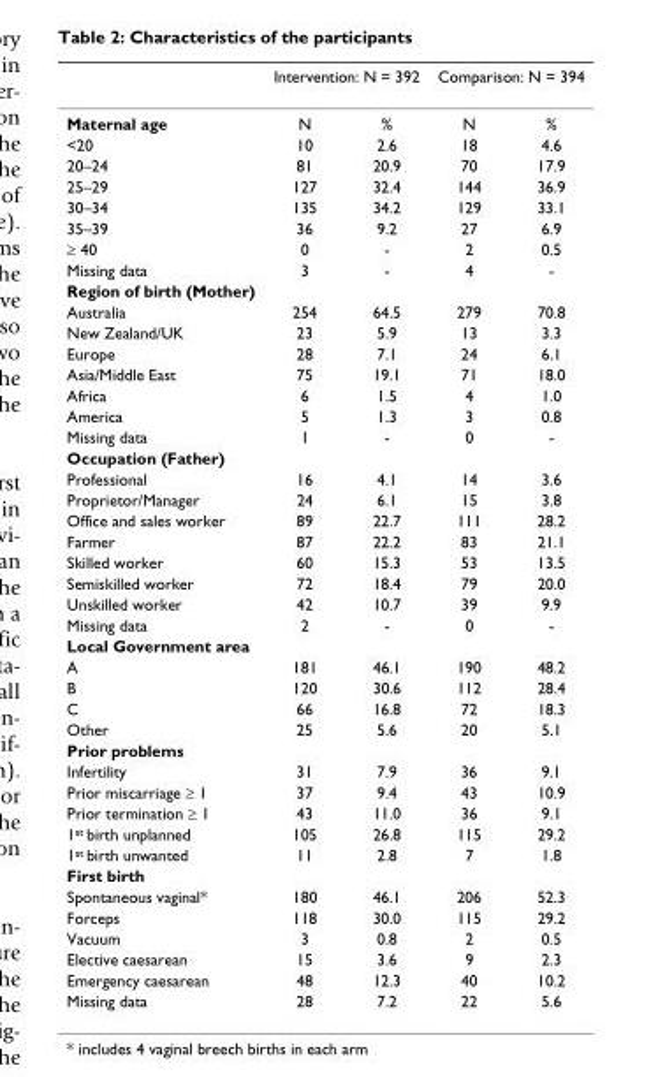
<table><thead><tr><td rowspan="2">Maternal age</td><td colspan="2">Intervention: N = 392</td><td colspan="2">Comparison: N = 394</td></tr><tr><td>N</td><td>%</td><td>N</td><td>%</td></tr></thead><tbody><tr><td>&lt;20</td><td>10</td><td>2.6</td><td>18</td><td>4.6</td></tr><tr><td>20–24</td><td>81</td><td>20.9</td><td>70</td><td>17.9</td></tr><tr><td>25–29</td><td>127</td><td>32.4</td><td>144</td><td>36.9</td></tr><tr><td>30–34</td><td>135</td><td>34.2</td><td>129</td><td>33.1</td></tr><tr><td>35–39</td><td>36</td><td>9.2</td><td>27</td><td>6.9</td></tr><tr><td>≥ 40</td><td>0</td><td>-</td><td>2</td><td>0.5</td></tr><tr><td>Missing data</td><td>3</td><td>-</td><td>4</td><td>-</td></tr><tr><td colspan="5">Region of birth (Mother)</td></tr><tr><td>Australia</td><td>254</td><td>64.5</td><td>279</td><td>70.8</td></tr><tr><td>New Zealand/UK</td><td>23</td><td>5.9</td><td>13</td><td>3.3</td></tr><tr><td>Europe</td><td>28</td><td>7.1</td><td>24</td><td>6.1</td></tr><tr><td>Asia/Middle East</td><td>75</td><td>19.1</td><td>71</td><td>18.0</td></tr><tr><td>Africa</td><td>6</td><td>1.5</td><td>4</td><td>1.0</td></tr><tr><td>America</td><td>5</td><td>1.3</td><td>3</td><td>0.8</td></tr><tr><td>Missing data</td><td>1</td><td>-</td><td>0</td><td>-</td></tr><tr><td colspan="5">Occupation (Father)</td></tr><tr><td>Professional</td><td>16</td><td>4.1</td><td>14</td><td>3.6</td></tr><tr><td>Proprietor/Manager</td><td>24</td><td>6.1</td><td>15</td><td>3.8</td></tr><tr><td>Office and sales worker</td><td>89</td><td>22.7</td><td>111</td><td>28.2</td></tr><tr><td>Farmer</td><td>87</td><td>22.2</td><td>83</td><td>21.1</td></tr><tr><td>Skilled worker</td><td>60</td><td>15.3</td><td>53</td><td>13.5</td></tr><tr><td>Semiskilled worker</td><td>72</td><td>18.4</td><td>79</td><td>20.0</td></tr><tr><td>Unskilled worker</td><td>42</td><td>10.7</td><td>39</td><td>9.9</td></tr><tr><td>Missing data</td><td>2</td><td>-</td><td>0</td><td>-</td></tr><tr><td colspan="5">Local Government area</td></tr><tr><td>A</td><td>181</td><td>46.1</td><td>190</td><td>48.2</td></tr><tr><td>B</td><td>120</td><td>30.6</td><td>112</td><td>28.4</td></tr><tr><td>C</td><td>66</td><td>16.8</td><td>72</td><td>18.3</td></tr><tr><td>Other</td><td>25</td><td>5.6</td><td>20</td><td>5.1</td></tr><tr><td colspan="5">Prior problems</td></tr><tr><td>Infertility</td><td>31</td><td>7.9</td><td>36</td><td>9.1</td></tr><tr><td>Prior miscarriage ≥ 1</td><td>37</td><td>9.4</td><td>43</td><td>10.9</td></tr><tr><td>Prior termination ≥ 1</td><td>43</td><td>11.0</td><td>36</td><td>9.1</td></tr><tr><td>1st birth unplanned</td><td>105</td><td>26.8</td><td>115</td><td>29.2</td></tr><tr><td>1st birth unwanted</td><td>11</td><td>2.8</td><td>7</td><td>1.8</td></tr><tr><td colspan="5">First birth</td></tr><tr><td>Spontaneous vaginal*</td><td>180</td><td>46.1</td><td>206</td><td>52.3</td></tr><tr><td>Forceps</td><td>118</td><td>30.0</td><td>115</td><td>29.2</td></tr><tr><td>Vacuum</td><td>3</td><td>0.8</td><td>2</td><td>0.5</td></tr><tr><td>Elective caesarean</td><td>15</td><td>3.6</td><td>9</td><td>2.3</td></tr><tr><td>Emergency caesarean</td><td>48</td><td>12.3</td><td>40</td><td>10.2</td></tr><tr><td>Missing data</td><td>28</td><td>7.2</td><td>22</td><td>5.6</td></tr></tbody></table>